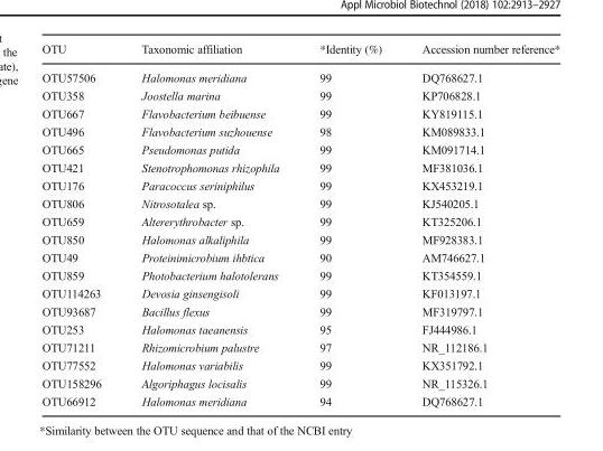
<table><thead><tr><td>OTU</td><td>Taxonomic affiliation</td><td>*Identity (%)</td><td>Accession number reference*</td></tr></thead><tbody><tr><td>OTU57506</td><td>Halomonas meridiana</td><td>99</td><td>DQ768627.1</td></tr><tr><td>OTU358</td><td>Joostella marina</td><td>99</td><td>KP706828.1</td></tr><tr><td>OTU667</td><td>Flavobacterium beibuense</td><td>99</td><td>KY819115.1</td></tr><tr><td>OTU496</td><td>Flavobacterium suzhouense</td><td>98</td><td>KM089833.1</td></tr><tr><td>OTU665</td><td>Pseudomonas putida</td><td>99</td><td>KM091714.1</td></tr><tr><td>OTU421</td><td>Stenotrophomonas rhizophila</td><td>99</td><td>MF381036.1</td></tr><tr><td>OTU176</td><td>Paracoccus seriniphilus</td><td>99</td><td>KX453219.1</td></tr><tr><td>OTU806</td><td>Nitrosotalea sp.</td><td>99</td><td>KJ540205.1</td></tr><tr><td>OTU659</td><td>Altererythrobacter sp.</td><td>99</td><td>KT325206.1</td></tr><tr><td>OTU850</td><td>Halomonas alkaliphila</td><td>99</td><td>MF928383.1</td></tr><tr><td>OTU49</td><td>Proteinimicrobium ihbtica</td><td>90</td><td>AM746627.1</td></tr><tr><td>OTU859</td><td>Photobacterium halotolerans</td><td>99</td><td>KT354559.1</td></tr><tr><td>OTU114263</td><td>Devosia ginsengisoli</td><td>99</td><td>KF013197.1</td></tr><tr><td>OTU93687</td><td>Bacillus flexus</td><td>99</td><td>MF319797.1</td></tr><tr><td>OTU253</td><td>Halomonas taeanensis</td><td>95</td><td>FJ444986.1</td></tr><tr><td>OTU71211</td><td>Rhizomicrobium palustre</td><td>97</td><td>NR_112186.1</td></tr><tr><td>OTU77552</td><td>Halomonas variabilis</td><td>99</td><td>KX351792.1</td></tr><tr><td>OTU158296</td><td>Algoriphagus locisalis</td><td>99</td><td>NR_115326.1</td></tr><tr><td>OTU66912</td><td>Halomonas meridiana</td><td>94</td><td>DQ768627.1</td></tr></tbody></table>